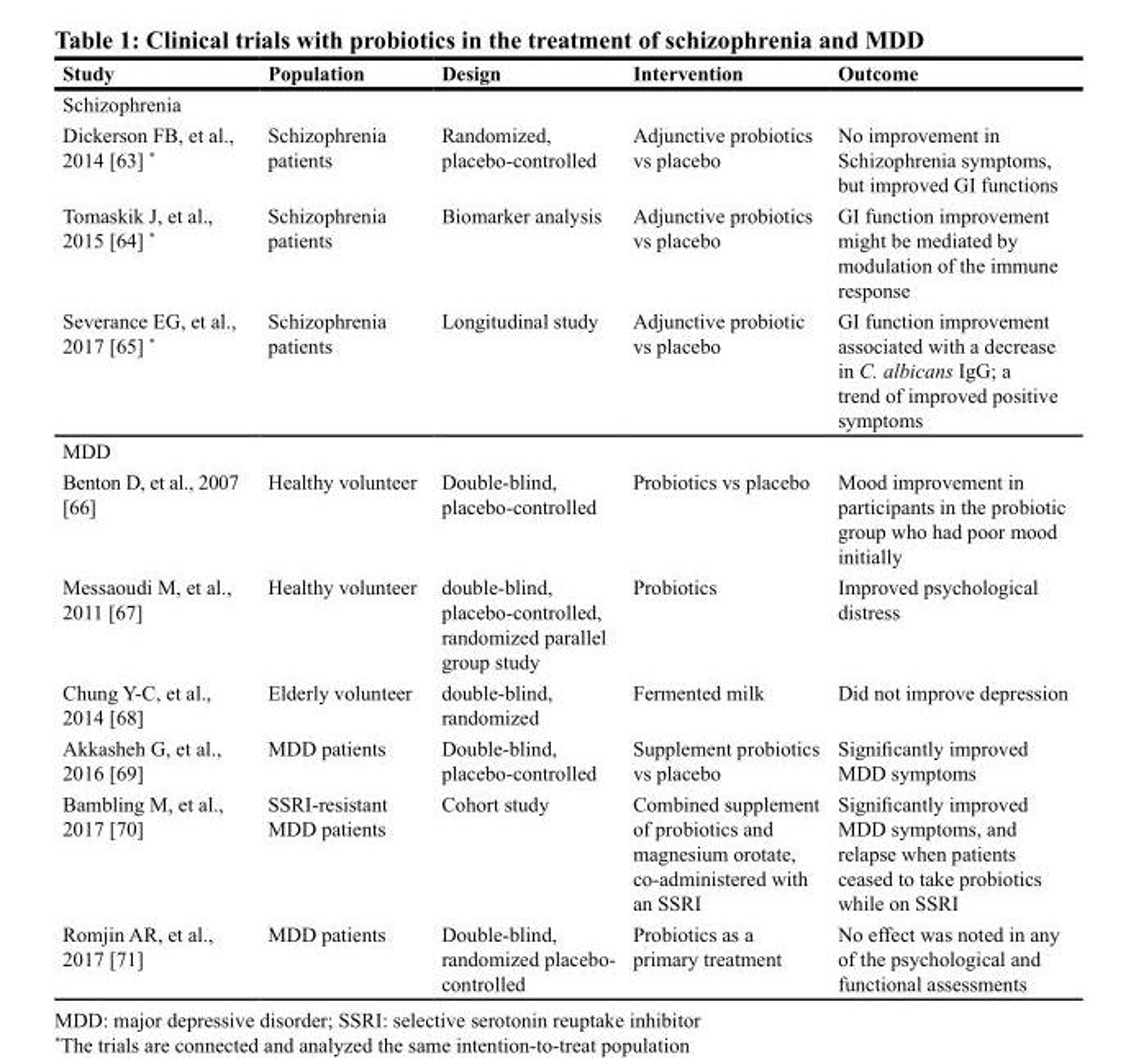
<table><thead><tr><td>Study</td><td>Population</td><td>Design</td><td>Intervention</td><td>Outcome</td></tr></thead><tbody><tr><td colspan="5">Schizophrenia</td></tr><tr><td>Dickerson FB, et al., 2014 [63] *</td><td>Schizophrenia patients</td><td>Randomized, placebo-controlled</td><td>Adjunctive probiotics vs placebo</td><td>No improvement in Schizophrenia symptoms, but improved GI functions</td></tr><tr><td>Tomaskik J, et al., 2015 [64] *</td><td>Schizophrenia patients</td><td>Biomarker analysis</td><td>Adjunctive probiotics vs placebo</td><td>GI function improvement might be mediated by modulation of the immune response</td></tr><tr><td>Severance EG, et al., 2017 [65] *</td><td>Schizophrenia patients</td><td>Longitudinal study</td><td>Adjunctive probiotic vs placebo</td><td>GI function improvement associated with a decrease in C. albicans IgG; a trend of improved positive symptoms</td></tr><tr><td colspan="5">MDD</td></tr><tr><td>Benton D, et al., 2007 [66]</td><td>Healthy volunteer</td><td>Double-blind, placebo-controlled</td><td>Probiotics vs placebo</td><td>Mood improvement in participants in the probiotic group who had poor mood initially</td></tr><tr><td>Messaoudi M, et al., 2011 [67]</td><td>Healthy volunteer</td><td>double-blind, placebo-controlled, randomized parallel group study</td><td>Probiotics</td><td>Improved psychological distress</td></tr><tr><td>Chung Y-C, et al., 2014 [68]</td><td>Elderly volunteer</td><td>double-blind, randomized</td><td>Fermented milk</td><td>Did not improve depression</td></tr><tr><td>Akkasheh G, et al., 2016 [69]</td><td>MDD patients</td><td>Double-blind, placebo-controlled</td><td>Supplement probiotics vs placebo</td><td>Significantly improved MDD symptoms</td></tr><tr><td>Bambling M, et al., 2017 [70]</td><td>SSRI-resistant MDD patients</td><td>Cohort study</td><td>Combined supplement of probiotics and magnesium orotate, co-administered with an SSRI</td><td>Significantly improved MDD symptoms, and relapse when patients ceased to take probiotics while on SSRI</td></tr><tr><td>Romjin AR, et al., 2017 [71]</td><td>MDD patients</td><td>Double-blind, randomized placebo- controlled</td><td>Probiotics as a primary treatment</td><td>No effect was noted in any of the psychological and functional assessments</td></tr></tbody></table>